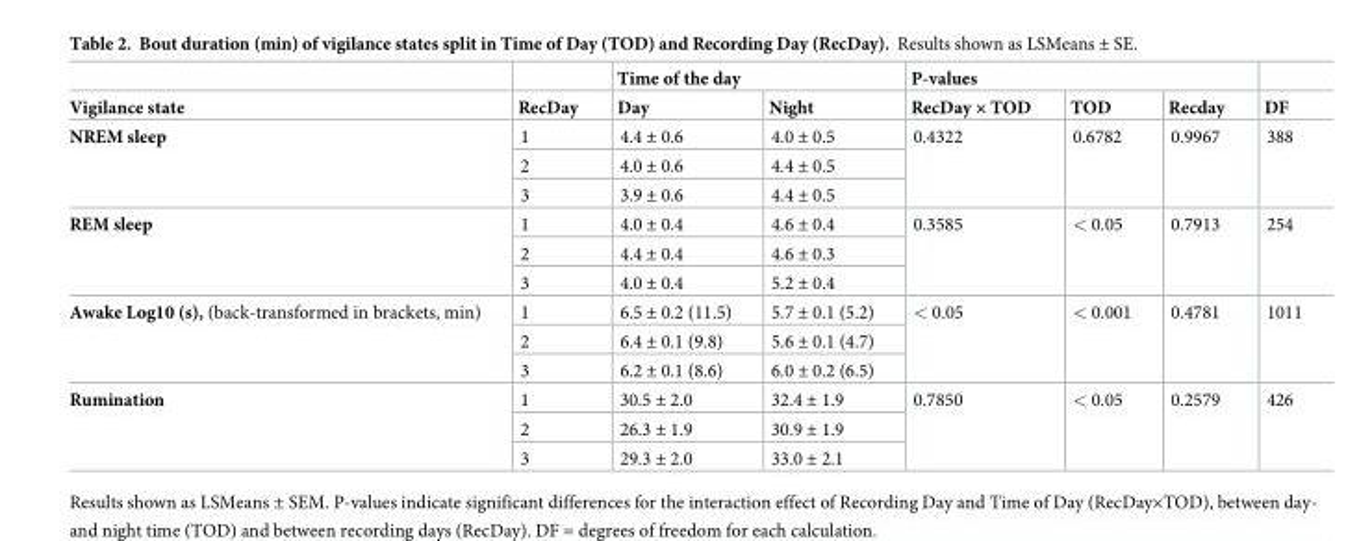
<table><thead><tr><td rowspan="2">Vigilance state</td><td rowspan="2">RecDay</td><td colspan="2">Time of the day</td><td colspan="3">P-values</td><td rowspan="2">DF</td></tr><tr><td>Day</td><td>Night</td><td>RecDay × TOD</td><td>TOD</td><td>Recday</td></tr></thead><tbody><tr><td rowspan="3">NREM sleep</td><td>1</td><td>4.4 ± 0.6</td><td>4.0 ± 0.5</td><td rowspan="3">0.4322</td><td rowspan="3">0.6782</td><td rowspan="3">0.9967</td><td rowspan="3">388</td></tr><tr><td>2</td><td>4.0 ± 0.6</td><td>4.4 ± 0.5</td></tr><tr><td>3</td><td>3.9 ± 0.6</td><td>4.4 ± 0.5</td></tr><tr><td rowspan="3">REM sleep</td><td>1</td><td>4.0 ± 0.4</td><td>4.6 ± 0.4</td><td rowspan="3">0.3585</td><td rowspan="3">&lt; 0.05</td><td rowspan="3">0.7913</td><td rowspan="3">254</td></tr><tr><td>2</td><td>4.4 ± 0.4</td><td>4.6 ± 0.3</td></tr><tr><td>3</td><td>4.0 ± 0.4</td><td>5.2 ± 0.4</td></tr><tr><td rowspan="3">Awake Log10 (s), (back-transformed in brackets, min)</td><td>1</td><td>6.5 ± 0.2 (11.5)</td><td>5.7 ± 0.1 (5.2)</td><td rowspan="3">&lt; 0.05</td><td rowspan="3">&lt; 0.001</td><td rowspan="3">0.4781</td><td rowspan="3">1011</td></tr><tr><td>2</td><td>6.4 ± 0.1 (9.8)</td><td>5.6 ± 0.1 (4.7)</td></tr><tr><td>3</td><td>6.2 ± 0.1 (8.6)</td><td>6.0 ± 0.2 (6.5)</td></tr><tr><td rowspan="3">Rumination</td><td>1</td><td>30.5 ± 2.0</td><td>32.4 ± 1.9</td><td rowspan="3">0.7850</td><td rowspan="3">&lt; 0.05</td><td rowspan="3">0.2579</td><td rowspan="3">426</td></tr><tr><td>2</td><td>26.3 ± 1.9</td><td>30.9 ± 1.9</td></tr><tr><td>3</td><td>29.3 ± 2.0</td><td>33.0 ± 2.1</td></tr></tbody></table>